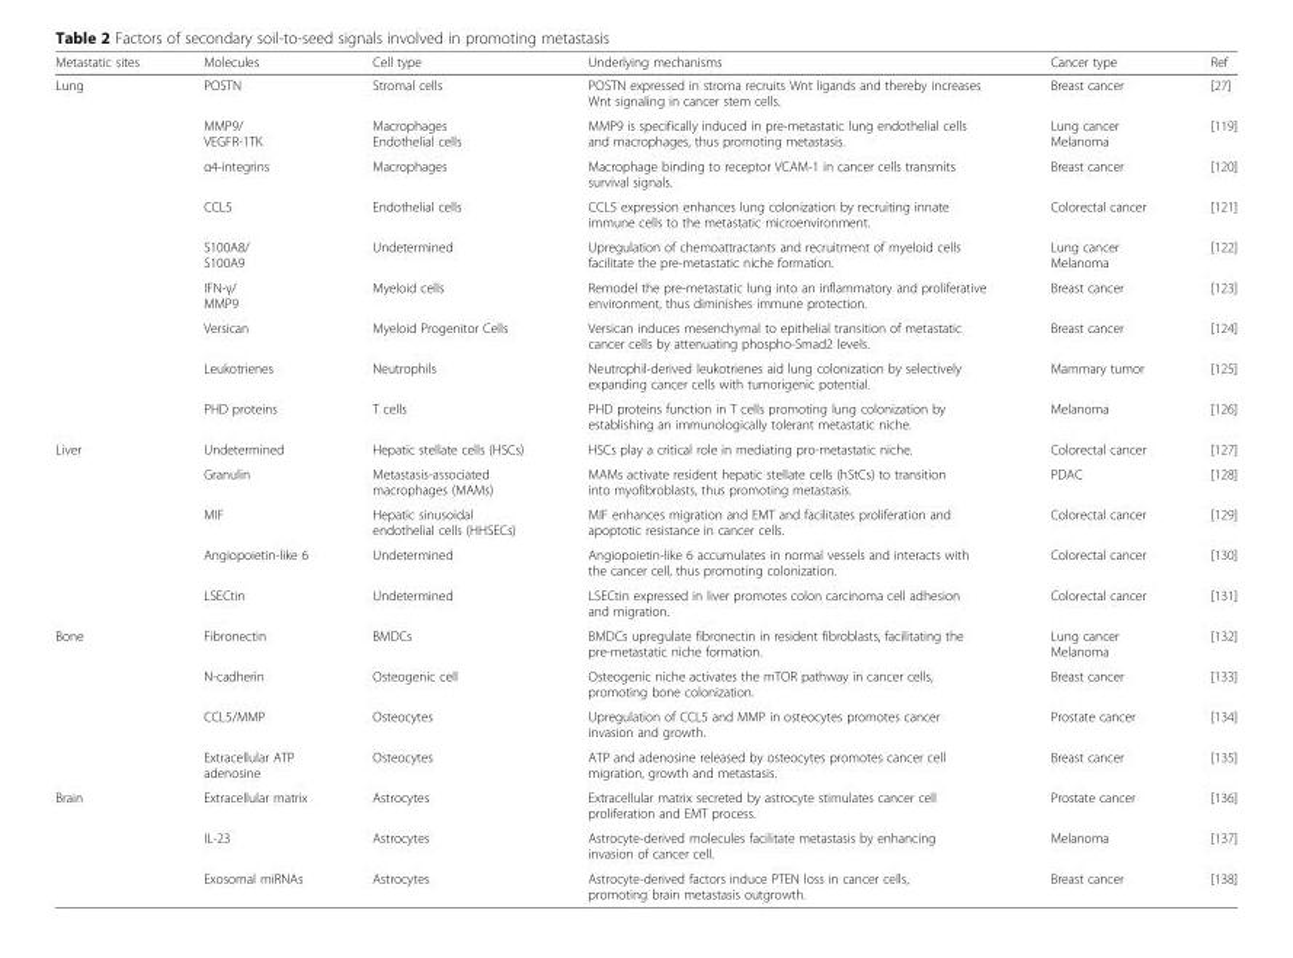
<table><thead><tr><td>Metastatic sites</td><td>Molecules</td><td>Cell type</td><td>Underlying mechanisms</td><td>Cancer type</td><td>Ref</td></tr></thead><tbody><tr><td rowspan="9">Lung</td><td>POSTN</td><td>Stromal cells</td><td>POSTN expressed in stroma recruits Wnt ligands and thereby increases Wnt signaling in cancer stem cells.</td><td>Breast cancer</td><td>[27]</td></tr><tr><td>MMP9/ VEGFR-1TK</td><td>Macrophages Endothelial cells</td><td>MMP9 is specifically induced in pre-metastatic lung endothelial cells and macrophages, thus promoting metastasis.</td><td>Lung cancer Melanoma</td><td>[119]</td></tr><tr><td>α4-integrins</td><td>Macrophages</td><td>Macrophage binding to receptor VCAM-1 in cancer cells transmits survival signals.</td><td>Breast cancer</td><td>[120]</td></tr><tr><td>CCL5</td><td>Endothelial cells</td><td>CCL5 expression enhances lung colonization by recruiting innate immune cells to the metastatic microenvironment.</td><td>Colorectal cancer</td><td>[121]</td></tr><tr><td>S100A8/ S100A9</td><td>Undetermined</td><td>Upregulation of chemoattractants and recruitment of myeloid cells facilitate the pre-metastatic niche formation.</td><td>Lung cancer Melanoma</td><td>[122]</td></tr><tr><td>IFN-γ/ MMP9</td><td>Myeloid cells</td><td>Remodel the pre-metastatic lung into an inflammatory and proliferative environment, thus diminishes immune protection.</td><td>Breast cancer</td><td>[123]</td></tr><tr><td>Versican</td><td>Myeloid Progenitor Cells</td><td>Versican induces mesenchymal to epithelial transition of metastatic cancer cells by attenuating phospho-Smad2 levels.</td><td>Breast cancer</td><td>[124]</td></tr><tr><td>Leukotrienes</td><td>Neutrophils</td><td>Neutrophil-derived leukotrienes aid lung colonization by selectively expanding cancer cells with tumorigenic potential.</td><td>Mammary tumor</td><td>[125]</td></tr><tr><td>PHD proteins</td><td>T cells</td><td>PHD proteins function in T cells promoting lung colonization by establishing an immunologically tolerant metastatic niche.</td><td>Melanoma</td><td>[126]</td></tr><tr><td rowspan="5">Liver</td><td>Undetermined</td><td>Hepatic stellate cells (HSCs)</td><td>HSCs play a critical role in mediating pro-metastatic niche.</td><td>Colorectal cancer</td><td>[127]</td></tr><tr><td>Granulin</td><td>Metastasis-associated macrophages (MAMs)</td><td>MAMs activate resident hepatic stellate cells (hStCs) to transition into myofibroblasts, thus promoting metastasis.</td><td>PDAC</td><td>[128]</td></tr><tr><td>MIF</td><td>Hepatic sinusoidal endothelial cells (HHSECs)</td><td>MIF enhances migration and EMT and facilitates proliferation and apoptotic resistance in cancer cells.</td><td>Colorectal cancer</td><td>[129]</td></tr><tr><td>Angiopoietin-like 6</td><td>Undetermined</td><td>Angiopoietin-like 6 accumulates in normal vessels and interacts with the cancer cell, thus promoting colonization.</td><td>Colorectal cancer</td><td>[130]</td></tr><tr><td>LSECtin</td><td>Undetermined</td><td>LSECtin expressed in liver promotes colon carcinoma cell adhesion and migration.</td><td>Colorectal cancer</td><td>[131]</td></tr><tr><td rowspan="4">Bone</td><td>Fibronectin</td><td>BMDCs</td><td>BMDCs upregulate fibronectin in resident fibroblasts, facilitating the pre-metastatic niche formation.</td><td>Lung cancer Melanoma</td><td>[132]</td></tr><tr><td>N-cadherin</td><td>Osteogenic cell</td><td>Osteogenic niche activates the mTOR pathway in cancer cells, promoting bone colonization.</td><td>Breast cancer</td><td>[133]</td></tr><tr><td>CCL5/MMP</td><td>Osteocytes</td><td>Upregulation of CCL5 and MMP in osteocytes promotes cancer invasion and growth.</td><td>Prostate cancer</td><td>[134]</td></tr><tr><td>Extracellular ATP adenosine</td><td>Osteocytes</td><td>ATP and adenosine released by osteocytes promotes cancer cell migration, growth and metastasis.</td><td>Breast cancer</td><td>[135]</td></tr><tr><td rowspan="3">Brain</td><td>Extracellular matrix</td><td>Astrocytes</td><td>Extracellular matrix secreted by astrocyte stimulates cancer cell proliferation and EMT process.</td><td>Prostate cancer</td><td>[136]</td></tr><tr><td>IL-23</td><td>Astrocytes</td><td>Astrocyte-derived molecules facilitate metastasis by enhancing invasion of cancer cell.</td><td>Melanoma</td><td>[137]</td></tr><tr><td>Exosomal miRNAs</td><td>Astrocytes</td><td>Astrocyte-derived factors induce PTEN loss in cancer cells, promoting brain metastasis outgrowth.</td><td>Breast cancer</td><td>[138]</td></tr></tbody></table>